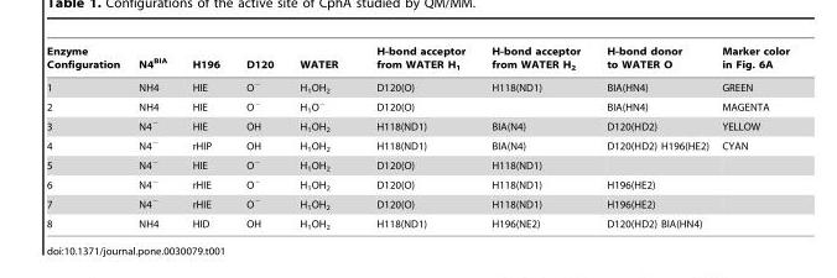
<table><thead><tr><td>Enzyme Configuration</td><td>N4<sup>BIA</sup></td><td>H196</td><td>D120</td><td>WATER</td><td>H-bond acceptor from WATER H<sub>1</sub></td><td>H-bond acceptor from WATER H<sub>2</sub></td><td>H-bond donor to WATER O</td><td>Marker color in Fig. 6A</td></tr></thead><tbody><tr><td>1</td><td>NH4</td><td>HIE</td><td>O<sup>−</sup></td><td>H<sub>1</sub>OH<sub>2</sub></td><td>D120(O)</td><td>H118(ND1)</td><td>BIA(HN4)</td><td>GREEN</td></tr><tr><td>2</td><td>NH4</td><td>HIE</td><td>O<sup>−</sup></td><td>H<sub>1</sub>O<sup>−</sup></td><td>D120(O)</td><td></td><td>BIA(HN4)</td><td>MAGENTA</td></tr><tr><td>3</td><td>N4<sup>−</sup></td><td>HIE</td><td>OH</td><td>H<sub>1</sub>OH<sub>2</sub></td><td>H118(ND1)</td><td>BIA(N4)</td><td>D120(HD2)</td><td>YELLOW</td></tr><tr><td>4</td><td>N4<sup>−</sup></td><td>rHIP</td><td>OH</td><td>H<sub>1</sub>OH<sub>2</sub></td><td>H118(ND1)</td><td>BIA(N4)</td><td>D120(HD2) H196(HE2)</td><td>CYAN</td></tr><tr><td>5</td><td>N4<sup>−</sup></td><td>HIE</td><td>O<sup>−</sup></td><td>H<sub>1</sub>OH<sub>2</sub></td><td>D120(O)</td><td>H118(ND1)</td><td></td><td></td></tr><tr><td>6</td><td>N4<sup>−</sup></td><td>rHIE</td><td>O<sup>−</sup></td><td>H<sub>1</sub>OH<sub>2</sub></td><td>D120(O)</td><td>H118(ND1)</td><td>H196(HE2)</td><td></td></tr><tr><td>7</td><td>N4<sup>−</sup></td><td>rHIE</td><td>O<sup>−</sup></td><td>H<sub>1</sub>OH<sub>2</sub></td><td>D120(O)</td><td>H118(ND1)</td><td>H196(HE2)</td><td></td></tr><tr><td>8</td><td>NH4</td><td>HID</td><td>OH</td><td>H<sub>1</sub>OH<sub>2</sub></td><td>H118(ND1)</td><td>H196(NE2)</td><td>D120(HD2) BIA(HN4)</td><td></td></tr></tbody></table>